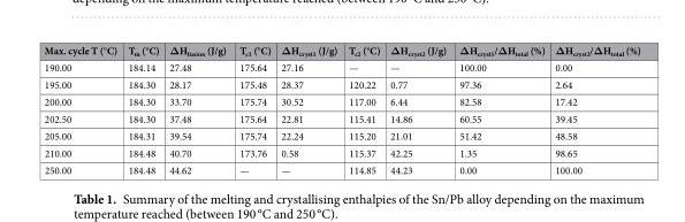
<table><thead><tr><td>Max. cycle T (°C)</td><td>T<sub>m</sub> (°C)</td><td>ΔH<sub>fusion</sub> (J/g)</td><td>T<sub>c1</sub> (°C)</td><td>ΔH<sub>cryst1</sub> (J/g)</td><td>T<sub>c2</sub> (°C)</td><td>ΔH<sub>cryst2</sub> (J/g)</td><td>ΔH<sub>cryst1</sub>/ΔH<sub>total</sub> (%)</td><td>ΔH<sub>cryst2</sub>/ΔH<sub>total</sub> (%)</td></tr></thead><tbody><tr><td>190.00</td><td>184.14</td><td>27.48</td><td>175.64</td><td>27.16</td><td>—</td><td>—</td><td>100.00</td><td>0.00</td></tr><tr><td>195.00</td><td>184.30</td><td>28.17</td><td>175.48</td><td>28.37</td><td>120.22</td><td>0.77</td><td>97.36</td><td>2.64</td></tr><tr><td>200.00</td><td>184.30</td><td>33.70</td><td>175.74</td><td>30.52</td><td>117.00</td><td>6.44</td><td>82.58</td><td>17.42</td></tr><tr><td>202.50</td><td>184.30</td><td>37.48</td><td>175.64</td><td>22.81</td><td>115.41</td><td>14.86</td><td>60.55</td><td>39.45</td></tr><tr><td>205.00</td><td>184.31</td><td>39.54</td><td>175.74</td><td>22.24</td><td>115.20</td><td>21.01</td><td>51.42</td><td>48.58</td></tr><tr><td>210.00</td><td>184.48</td><td>40.70</td><td>173.76</td><td>0.58</td><td>115.37</td><td>42.25</td><td>1.35</td><td>98.65</td></tr><tr><td>250.00</td><td>184.48</td><td>44.62</td><td>—</td><td>—</td><td>114.85</td><td>44.23</td><td>0.00</td><td>100.00</td></tr></tbody></table>